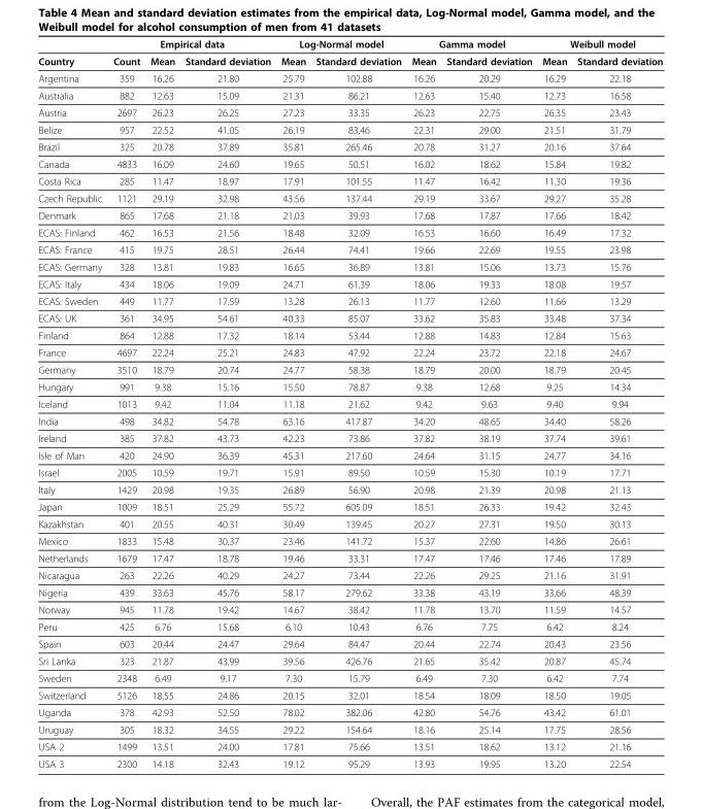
<table><thead><tr><td rowspan="2">Country</td><td colspan="3">Empirical data</td><td colspan="2">Log-Normal model</td><td colspan="2">Gamma model</td><td colspan="2">Weibull model</td></tr><tr><td>Count</td><td>Mean</td><td>Standard deviation</td><td>Mean</td><td>Standard deviation</td><td>Mean</td><td>Standard deviation</td><td>Mean</td><td>Standard deviation</td></tr></thead><tbody><tr><td>Argentina</td><td>359</td><td>16.26</td><td>21.80</td><td>25.79</td><td>102.88</td><td>16.26</td><td>20.29</td><td>16.29</td><td>22.18</td></tr><tr><td>Australia</td><td>882</td><td>12.63</td><td>15.09</td><td>21.31</td><td>86.21</td><td>12.63</td><td>15.40</td><td>12.73</td><td>16.58</td></tr><tr><td>Austria</td><td>2697</td><td>26.23</td><td>26.25</td><td>27.23</td><td>33.35</td><td>26.23</td><td>22.75</td><td>26.35</td><td>23.43</td></tr><tr><td>Belize</td><td>957</td><td>22.52</td><td>41.05</td><td>26.19</td><td>83.46</td><td>22.31</td><td>29.00</td><td>21.51</td><td>31.79</td></tr><tr><td>Brazil</td><td>325</td><td>20.78</td><td>37.89</td><td>35.81</td><td>265.46</td><td>20.78</td><td>31.27</td><td>20.16</td><td>37.64</td></tr><tr><td>Canada</td><td>4833</td><td>16.09</td><td>24.60</td><td>19.65</td><td>50.51</td><td>16.02</td><td>18.62</td><td>15.84</td><td>19.82</td></tr><tr><td>Costa Rica</td><td>285</td><td>11.47</td><td>18.97</td><td>17.91</td><td>101.55</td><td>11.47</td><td>16.42</td><td>11.30</td><td>19.36</td></tr><tr><td>Czech Republic</td><td>1121</td><td>29.19</td><td>32.98</td><td>43.56</td><td>137.44</td><td>29.19</td><td>33.67</td><td>29.27</td><td>35.28</td></tr><tr><td>Denmark</td><td>865</td><td>17.68</td><td>21.18</td><td>21.03</td><td>39.93</td><td>17.68</td><td>17.87</td><td>17.66</td><td>18.42</td></tr><tr><td>ECAS: Finland</td><td>462</td><td>16.53</td><td>21.56</td><td>18.48</td><td>32.09</td><td>16.53</td><td>16.60</td><td>16.49</td><td>17.32</td></tr><tr><td>ECAS: France</td><td>415</td><td>19.75</td><td>28.51</td><td>26.44</td><td>74.41</td><td>19.66</td><td>22.69</td><td>19.55</td><td>23.98</td></tr><tr><td>ECAS: Germany</td><td>328</td><td>13.81</td><td>19.83</td><td>16.65</td><td>36.89</td><td>13.81</td><td>15.06</td><td>13.73</td><td>15.76</td></tr><tr><td>ECAS: Italy</td><td>434</td><td>18.06</td><td>19.09</td><td>24.71</td><td>61.39</td><td>18.06</td><td>19.33</td><td>18.08</td><td>19.57</td></tr><tr><td>ECAS: Sweden</td><td>449</td><td>11.77</td><td>17.59</td><td>13.28</td><td>26.13</td><td>11.77</td><td>12.60</td><td>11.66</td><td>13.29</td></tr><tr><td>ECAS: UK</td><td>361</td><td>34.95</td><td>54.61</td><td>40.33</td><td>85.07</td><td>33.62</td><td>35.83</td><td>33.48</td><td>37.34</td></tr><tr><td>Finland</td><td>864</td><td>12.88</td><td>17.32</td><td>18.14</td><td>53.44</td><td>12.88</td><td>14.83</td><td>12.84</td><td>15.63</td></tr><tr><td>France</td><td>4697</td><td>22.24</td><td>25.21</td><td>24.83</td><td>47.92</td><td>22.24</td><td>23.72</td><td>22.18</td><td>24.67</td></tr><tr><td>Germany</td><td>3510</td><td>18.79</td><td>20.74</td><td>24.77</td><td>58.38</td><td>18.79</td><td>20.00</td><td>18.79</td><td>20.45</td></tr><tr><td>Hungary</td><td>991</td><td>9.38</td><td>15.16</td><td>15.50</td><td>78.87</td><td>9.38</td><td>12.68</td><td>9.25</td><td>14.34</td></tr><tr><td>Iceland</td><td>1013</td><td>9.42</td><td>11.04</td><td>11.18</td><td>21.62</td><td>9.42</td><td>9.63</td><td>9.40</td><td>9.94</td></tr><tr><td>India</td><td>498</td><td>34.82</td><td>54.78</td><td>63.16</td><td>417.87</td><td>34.20</td><td>48.65</td><td>34.40</td><td>58.26</td></tr><tr><td>Ireland</td><td>385</td><td>37.82</td><td>43.73</td><td>42.23</td><td>73.86</td><td>37.82</td><td>38.19</td><td>37.74</td><td>39.61</td></tr><tr><td>Isle of Man</td><td>420</td><td>24.90</td><td>36.39</td><td>45.31</td><td>217.60</td><td>24.64</td><td>31.15</td><td>24.77</td><td>34.16</td></tr><tr><td>Israel</td><td>2005</td><td>10.59</td><td>19.71</td><td>15.91</td><td>89.50</td><td>10.59</td><td>15.30</td><td>10.19</td><td>17.71</td></tr><tr><td>Italy</td><td>1429</td><td>20.98</td><td>19.35</td><td>26.89</td><td>56.90</td><td>20.98</td><td>21.39</td><td>20.98</td><td>21.13</td></tr><tr><td>Japan</td><td>1009</td><td>18.51</td><td>25.29</td><td>55.72</td><td>605.09</td><td>18.51</td><td>26.33</td><td>19.42</td><td>32.43</td></tr><tr><td>Kazakhstan</td><td>401</td><td>20.55</td><td>40.31</td><td>30.49</td><td>139.45</td><td>20.27</td><td>27.31</td><td>19.50</td><td>30.13</td></tr><tr><td>Mexico</td><td>1833</td><td>15.48</td><td>30.37</td><td>23.46</td><td>141.72</td><td>15.37</td><td>22.60</td><td>14.86</td><td>26.61</td></tr><tr><td>Netherlands</td><td>1679</td><td>17.47</td><td>18.78</td><td>19.46</td><td>33.31</td><td>17.47</td><td>17.46</td><td>17.46</td><td>17.89</td></tr><tr><td>Nicaragua</td><td>263</td><td>22.26</td><td>40.29</td><td>24.27</td><td>73.44</td><td>22.26</td><td>29.25</td><td>21.16</td><td>31.91</td></tr><tr><td>Nigeria</td><td>439</td><td>33.63</td><td>45.76</td><td>58.17</td><td>279.62</td><td>33.38</td><td>43.19</td><td>33.66</td><td>48.39</td></tr><tr><td>Norway</td><td>945</td><td>11.78</td><td>19.42</td><td>14.67</td><td>38.42</td><td>11.78</td><td>13.70</td><td>11.59</td><td>14.57</td></tr><tr><td>Peru</td><td>425</td><td>6.76</td><td>15.68</td><td>6.10</td><td>10.43</td><td>6.76</td><td>7.75</td><td>6.42</td><td>8.24</td></tr><tr><td>Spain</td><td>603</td><td>20.44</td><td>24.47</td><td>29.64</td><td>84.47</td><td>20.44</td><td>22.74</td><td>20.43</td><td>23.56</td></tr><tr><td>Sri Lanka</td><td>323</td><td>21.87</td><td>43.99</td><td>39.56</td><td>426.76</td><td>21.65</td><td>35.42</td><td>20.87</td><td>45.74</td></tr><tr><td>Sweden</td><td>2348</td><td>6.49</td><td>9.17</td><td>7.30</td><td>15.79</td><td>6.49</td><td>7.30</td><td>6.42</td><td>7.74</td></tr><tr><td>Switzerland</td><td>5126</td><td>18.55</td><td>24.86</td><td>20.15</td><td>32.01</td><td>18.54</td><td>18.09</td><td>18.50</td><td>19.05</td></tr><tr><td>Uganda</td><td>378</td><td>42.93</td><td>52.50</td><td>78.02</td><td>382.06</td><td>42.80</td><td>54.76</td><td>43.42</td><td>61.01</td></tr><tr><td>Uruguay</td><td>305</td><td>18.32</td><td>34.55</td><td>29.22</td><td>154.64</td><td>18.16</td><td>25.14</td><td>17.75</td><td>28.56</td></tr><tr><td>USA 2</td><td>1499</td><td>13.51</td><td>24.00</td><td>17.81</td><td>75.66</td><td>13.51</td><td>18.62</td><td>13.12</td><td>21.16</td></tr><tr><td>USA 3</td><td>2300</td><td>14.18</td><td>32.43</td><td>19.12</td><td>95.29</td><td>13.93</td><td>19.95</td><td>13.20</td><td>22.54</td></tr></tbody></table>